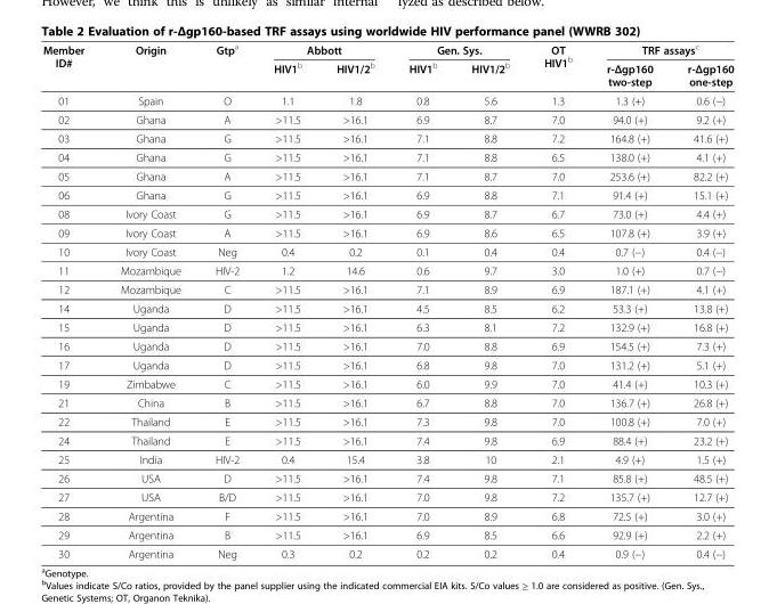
<table><thead><tr><td rowspan="2">Member ID#</td><td rowspan="2">Origin</td><td rowspan="2">Gtp<sup>a</sup></td><td colspan="2">Abbott</td><td colspan="2">Gen. Sys.</td><td rowspan="2">OT HIV1<sup>b</sup></td><td colspan="2">TRF assays<sup>c</sup></td></tr><tr><td>HIV1<sup>b</sup></td><td>HIV1/2<sup>b</sup></td><td>HIV1<sup>b</sup></td><td>HIV1/2<sup>b</sup></td><td>r-Δgp160 two-step</td><td>r-Δgp160 one-step</td></tr></thead><tbody><tr><td>01</td><td>Spain</td><td>O</td><td>1.1</td><td>1.8</td><td>0.8</td><td>5.6</td><td>1.3</td><td>1.3 (+)</td><td>0.6 (−)</td></tr><tr><td>02</td><td>Ghana</td><td>A</td><td>&gt;11.5</td><td>&gt;16.1</td><td>6.9</td><td>8.7</td><td>7.0</td><td>94.0 (+)</td><td>9.2 (+)</td></tr><tr><td>03</td><td>Ghana</td><td>G</td><td>&gt;11.5</td><td>&gt;16.1</td><td>7.1</td><td>8.8</td><td>7.2</td><td>164.8 (+)</td><td>41.6 (+)</td></tr><tr><td>04</td><td>Ghana</td><td>G</td><td>&gt;11.5</td><td>&gt;16.1</td><td>7.1</td><td>8.8</td><td>6.5</td><td>138.0 (+)</td><td>4.1 (+)</td></tr><tr><td>05</td><td>Ghana</td><td>A</td><td>&gt;11.5</td><td>&gt;16.1</td><td>7.1</td><td>8.7</td><td>7.0</td><td>253.6 (+)</td><td>82.2 (+)</td></tr><tr><td>06</td><td>Ghana</td><td>G</td><td>&gt;11.5</td><td>&gt;16.1</td><td>6.9</td><td>8.8</td><td>7.1</td><td>91.4 (+)</td><td>15.1 (+)</td></tr><tr><td>08</td><td>Ivory Coast</td><td>G</td><td>&gt;11.5</td><td>&gt;16.1</td><td>6.9</td><td>8.7</td><td>6.7</td><td>73.0 (+)</td><td>4.4 (+)</td></tr><tr><td>09</td><td>Ivory Coast</td><td>A</td><td>&gt;11.5</td><td>&gt;16.1</td><td>6.9</td><td>8.6</td><td>6.5</td><td>107.8 (+)</td><td>3.9 (+)</td></tr><tr><td>10</td><td>Ivory Coast</td><td>Neg</td><td>0.4</td><td>0.2</td><td>0.1</td><td>0.4</td><td>0.4</td><td>0.7 (−)</td><td>0.4 (−)</td></tr><tr><td>11</td><td>Mozambique</td><td>HIV-2</td><td>1.2</td><td>14.6</td><td>0.6</td><td>9.7</td><td>3.0</td><td>1.0 (+)</td><td>0.7 (−)</td></tr><tr><td>12</td><td>Mozambique</td><td>C</td><td>&gt;11.5</td><td>&gt;16.1</td><td>7.1</td><td>8.9</td><td>6.9</td><td>187.1 (+)</td><td>4.1 (+)</td></tr><tr><td>14</td><td>Uganda</td><td>D</td><td>&gt;11.5</td><td>&gt;16.1</td><td>4.5</td><td>8.5</td><td>6.2</td><td>53.3 (+)</td><td>13.8 (+)</td></tr><tr><td>15</td><td>Uganda</td><td>D</td><td>&gt;11.5</td><td>&gt;16.1</td><td>6.3</td><td>8.1</td><td>7.2</td><td>132.9 (+)</td><td>16.8 (+)</td></tr><tr><td>16</td><td>Uganda</td><td>D</td><td>&gt;11.5</td><td>&gt;16.1</td><td>7.0</td><td>8.8</td><td>6.9</td><td>154.5 (+)</td><td>7.3 (+)</td></tr><tr><td>17</td><td>Uganda</td><td>D</td><td>&gt;11.5</td><td>&gt;16.1</td><td>6.8</td><td>9.8</td><td>7.0</td><td>131.2 (+)</td><td>5.1 (+)</td></tr><tr><td>19</td><td>Zimbabwe</td><td>C</td><td>&gt;11.5</td><td>&gt;16.1</td><td>6.0</td><td>9.9</td><td>7.0</td><td>41.4 (+)</td><td>10.3 (+)</td></tr><tr><td>21</td><td>China</td><td>B</td><td>&gt;11.5</td><td>&gt;16.1</td><td>6.7</td><td>8.8</td><td>7.0</td><td>136.7 (+)</td><td>26.8 (+)</td></tr><tr><td>22</td><td>Thailand</td><td>E</td><td>&gt;11.5</td><td>&gt;16.1</td><td>7.3</td><td>9.8</td><td>7.0</td><td>100.8 (+)</td><td>7.0 (+)</td></tr><tr><td>24</td><td>Thailand</td><td>E</td><td>&gt;11.5</td><td>&gt;16.1</td><td>7.4</td><td>9.8</td><td>6.9</td><td>88.4 (+)</td><td>23.2 (+)</td></tr><tr><td>25</td><td>India</td><td>HIV-2</td><td>0.4</td><td>15.4</td><td>3.8</td><td>10</td><td>2.1</td><td>4.9 (+)</td><td>1.5 (+)</td></tr><tr><td>26</td><td>USA</td><td>D</td><td>&gt;11.5</td><td>&gt;16.1</td><td>7.4</td><td>9.8</td><td>7.1</td><td>85.8 (+)</td><td>48.5 (+)</td></tr><tr><td>27</td><td>USA</td><td>B/D</td><td>&gt;11.5</td><td>&gt;16.1</td><td>7.0</td><td>9.8</td><td>7.2</td><td>135.7 (+)</td><td>12.7 (+)</td></tr><tr><td>28</td><td>Argentina</td><td>F</td><td>&gt;11.5</td><td>&gt;16.1</td><td>7.0</td><td>8.9</td><td>6.8</td><td>72.5 (+)</td><td>3.0 (+)</td></tr><tr><td>29</td><td>Argentina</td><td>B</td><td>&gt;11.5</td><td>&gt;16.1</td><td>6.9</td><td>8.5</td><td>6.6</td><td>92.9 (+)</td><td>2.2 (+)</td></tr><tr><td>30</td><td>Argentina</td><td>Neg</td><td>0.3</td><td>0.2</td><td>0.2</td><td>0.2</td><td>0.4</td><td>0.9 (−)</td><td>0.4 (−)</td></tr></tbody></table>